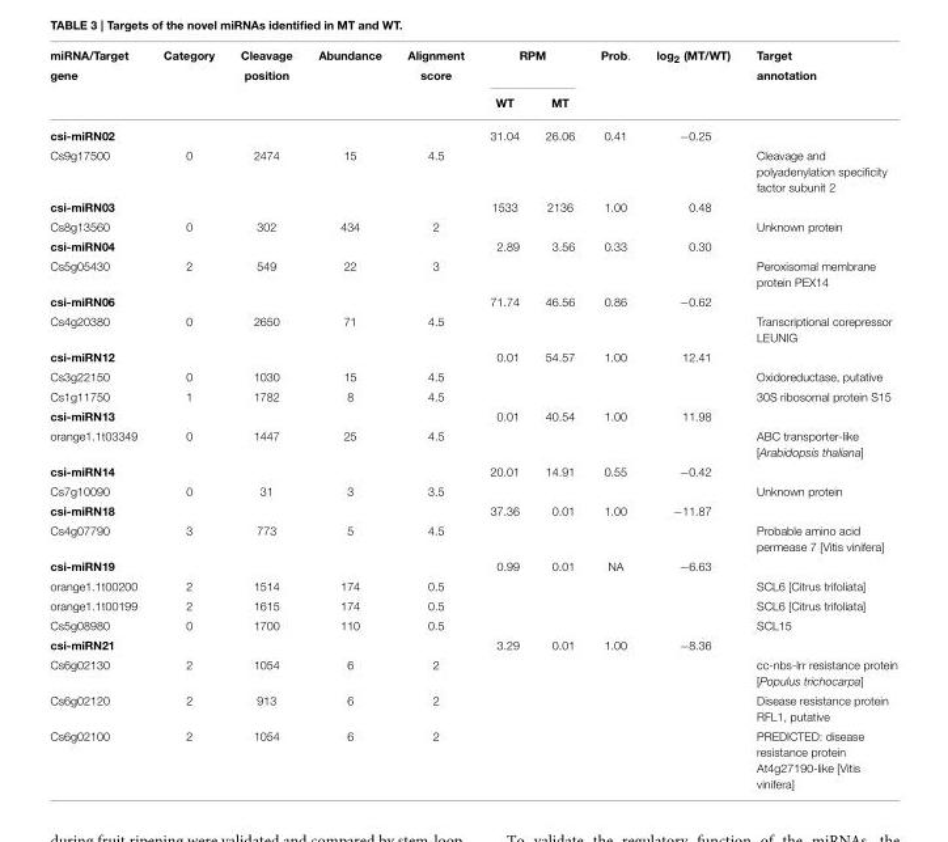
<table><thead><tr><td rowspan="3">miRNA/Target gene</td><td rowspan="3">Category</td><td rowspan="3">Cleavage position</td><td rowspan="3">Abundance</td><td rowspan="3">Alignment score</td><td colspan="2">RPM</td><td rowspan="3">Prob.</td><td rowspan="3">log<sub>2</sub> (MT/WT)</td><td rowspan="3">Target annotation</td></tr><tr><td rowspan="2">WT</td><td rowspan="2">MT</td></tr><tr></tr></thead><tbody><tr><td>csi-miRN02</td><td></td><td></td><td></td><td></td><td>31.04</td><td>26.06</td><td>0.41</td><td>−0.25</td><td></td></tr><tr><td>Cs9g17500</td><td>0</td><td>2474</td><td>15</td><td>4.5</td><td></td><td></td><td></td><td></td><td>Cleavage and polyadenylation specificity factor subunit 2</td></tr><tr><td>csi-miRN03</td><td></td><td></td><td></td><td></td><td>1533</td><td>2136</td><td>1.00</td><td>0.48</td><td></td></tr><tr><td>Cs8g13560</td><td>0</td><td>302</td><td>434</td><td>2</td><td></td><td></td><td></td><td></td><td>Unknown protein</td></tr><tr><td>csi-miRN04</td><td></td><td></td><td></td><td></td><td>2.89</td><td>3.56</td><td>0.33</td><td>0.30</td><td></td></tr><tr><td>Cs5g05430</td><td>2</td><td>549</td><td>22</td><td>3</td><td></td><td></td><td></td><td></td><td>Peroxisomal membrane protein PEX14</td></tr><tr><td>csi-miRN06</td><td></td><td></td><td></td><td></td><td>71.74</td><td>46.56</td><td>0.86</td><td>−0.62</td><td></td></tr><tr><td>Cs4g20380</td><td>0</td><td>2650</td><td>71</td><td>4.5</td><td></td><td></td><td></td><td></td><td>Transcriptional corepressor LEUNIG</td></tr><tr><td>csi-miRN12</td><td></td><td></td><td></td><td></td><td>0.01</td><td>54.57</td><td>1.00</td><td>12.41</td><td></td></tr><tr><td>Cs3g22150</td><td>0</td><td>1030</td><td>15</td><td>4.5</td><td></td><td></td><td></td><td></td><td>Oxidoreductase, putative</td></tr><tr><td>Cs1g11750</td><td>1</td><td>1782</td><td>8</td><td>4.5</td><td></td><td></td><td></td><td></td><td>30S ribosomal protein S15</td></tr><tr><td>csi-miRN13</td><td></td><td></td><td></td><td></td><td>0.01</td><td>40.54</td><td>1.00</td><td>11.98</td><td></td></tr><tr><td>orange1.1t03349</td><td>0</td><td>1447</td><td>25</td><td>4.5</td><td></td><td></td><td></td><td></td><td>ABC transporter-like [Arabidopsis thaliana]</td></tr><tr><td>csi-miRN14</td><td></td><td></td><td></td><td></td><td>20.01</td><td>14.91</td><td>0.55</td><td>−0.42</td><td></td></tr><tr><td>Cs7g10090</td><td>0</td><td>31</td><td>3</td><td>3.5</td><td></td><td></td><td></td><td></td><td>Unknown protein</td></tr><tr><td>csi-miRN18</td><td></td><td></td><td></td><td></td><td>37.36</td><td>0.01</td><td>1.00</td><td>−11.87</td><td></td></tr><tr><td>Cs4g07790</td><td>3</td><td>773</td><td>5</td><td>4.5</td><td></td><td></td><td></td><td></td><td>Probable amino acid permease 7 [Vitis vinifera]</td></tr><tr><td>csi-miRN19</td><td></td><td></td><td></td><td></td><td>0.99</td><td>0.01</td><td>NA</td><td>−6.63</td><td></td></tr><tr><td>orange1.1t00200</td><td>2</td><td>1514</td><td>174</td><td>0.5</td><td></td><td></td><td></td><td></td><td>SCL6 [Citrus trifoliata]</td></tr><tr><td>orange1.1t00199</td><td>2</td><td>1615</td><td>174</td><td>0.5</td><td></td><td></td><td></td><td></td><td>SCL6 [Citrus trifoliata]</td></tr><tr><td>Cs5g08980</td><td>0</td><td>1700</td><td>110</td><td>0.5</td><td></td><td></td><td></td><td></td><td>SCL15</td></tr><tr><td>csi-miRN21</td><td></td><td></td><td></td><td></td><td>3.29</td><td>0.01</td><td>1.00</td><td>−8.36</td><td></td></tr><tr><td>Cs6g02130</td><td>2</td><td>1054</td><td>6</td><td>2</td><td></td><td></td><td></td><td></td><td>cc-nbs-lrr resistance protein [Populus trichocarpa]</td></tr><tr><td>Cs6g02120</td><td>2</td><td>913</td><td>6</td><td>2</td><td></td><td></td><td></td><td></td><td>Disease resistance protein RFL1, putative</td></tr><tr><td>Cs6g02100</td><td>2</td><td>1054</td><td>6</td><td>2</td><td></td><td></td><td></td><td></td><td>PREDICTED: disease resistance protein At4g27190-like [Vitis vinifera]</td></tr></tbody></table>